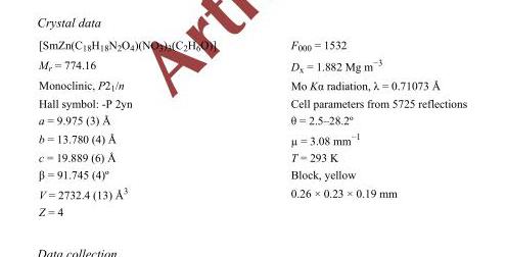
<table><tbody><tr><td>[SmZn(C18H18N2O4)(NO3)3(C2H6O)]</td><td>F000 = 1532</td></tr><tr><td>Mr = 774.16</td><td>Dx = 1.882 Mg m−3</td></tr><tr><td>Monoclinic, P21/n</td><td>Mo Kα radiation, λ = 0.71073 Å</td></tr><tr><td>Hall symbol: -P 2yn</td><td>Cell parameters from 5725 reflections</td></tr><tr><td>a = 9.975 (3) Å</td><td>θ = 2.5–28.2º</td></tr><tr><td>b = 13.780 (4) Å</td><td>µ = 3.08 mm−1</td></tr><tr><td>c = 19.889 (6) Å</td><td>T = 293 K</td></tr><tr><td>β = 91.745 (4)º</td><td>Block, yellow</td></tr><tr><td>V = 2732.4 (13) Å3</td><td>0.26 × 0.23 × 0.19 mm</td></tr><tr><td>Z = 4</td><td></td></tr></tbody></table>